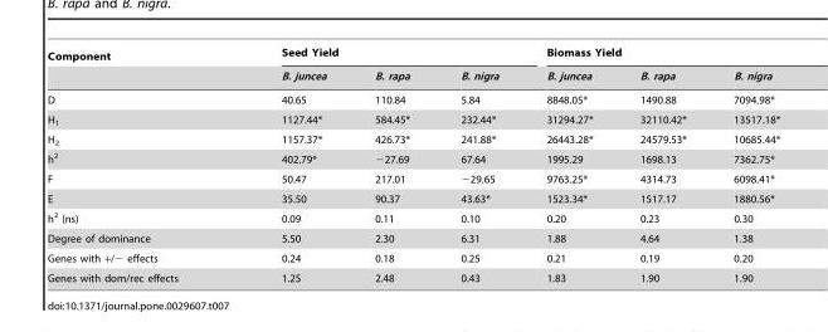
<table><thead><tr><td rowspan="2">Component</td><td colspan="3">Seed Yield</td><td colspan="3">Biomass Yield</td></tr><tr><td>B. juncea</td><td>B. rapa</td><td>B. nigra</td><td>B. juncea</td><td>B. rapa</td><td>B. nigra</td></tr></thead><tbody><tr><td>D</td><td>40.65</td><td>110.84</td><td>5.84</td><td>8848.05*</td><td>1490.88</td><td>7094.98*</td></tr><tr><td>H<sub>1</sub></td><td>1127.44*</td><td>584.45*</td><td>232.44*</td><td>31294.27*</td><td>32110.42*</td><td>13517.18*</td></tr><tr><td>H<sub>2</sub></td><td>1157.37*</td><td>426.73*</td><td>241.88*</td><td>26443.28*</td><td>24579.53*</td><td>10685.44*</td></tr><tr><td>h<sup>2</sup></td><td>402.79*</td><td>−27.69</td><td>67.64</td><td>1995.29</td><td>1698.13</td><td>7362.75*</td></tr><tr><td>F</td><td>50.47</td><td>217.01</td><td>−29.65</td><td>9763.25*</td><td>4314.73</td><td>6098.41*</td></tr><tr><td>E</td><td>35.50</td><td>90.37</td><td>43.63*</td><td>1523.34*</td><td>1517.17</td><td>1880.56*</td></tr><tr><td>h<sup>2</sup> (ns)</td><td>0.09</td><td>0.11</td><td>0.10</td><td>0.20</td><td>0.23</td><td>0.30</td></tr><tr><td>Degree of dominance</td><td>5.50</td><td>2.30</td><td>6.31</td><td>1.88</td><td>4.64</td><td>1.38</td></tr><tr><td>Genes with +/− effects</td><td>0.24</td><td>0.18</td><td>0.25</td><td>0.21</td><td>0.19</td><td>0.20</td></tr><tr><td>Genes with dom/rec effects</td><td>1.25</td><td>2.48</td><td>0.43</td><td>1.83</td><td>1.90</td><td>1.90</td></tr></tbody></table>